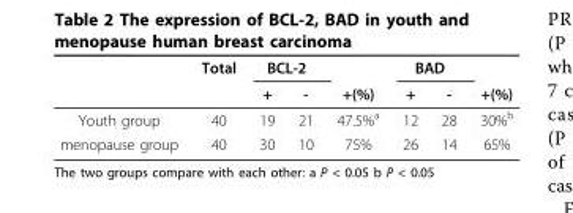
<table><thead><tr><td rowspan="2"></td><td rowspan="2">Total</td><td colspan="2">BCL-2</td><td rowspan="2">+(%)</td><td colspan="2">BAD</td><td rowspan="2">+(%)</td></tr><tr><td>+</td><td>-</td><td>+</td><td>-</td></tr></thead><tbody><tr><td>Youth group</td><td>40</td><td>19</td><td>21</td><td>47.5%<sup>a</sup></td><td>12</td><td>28</td><td>30%<sup>b</sup></td></tr><tr><td>menopause group</td><td>40</td><td>30</td><td>10</td><td>75%</td><td>26</td><td>14</td><td>65%</td></tr></tbody></table>